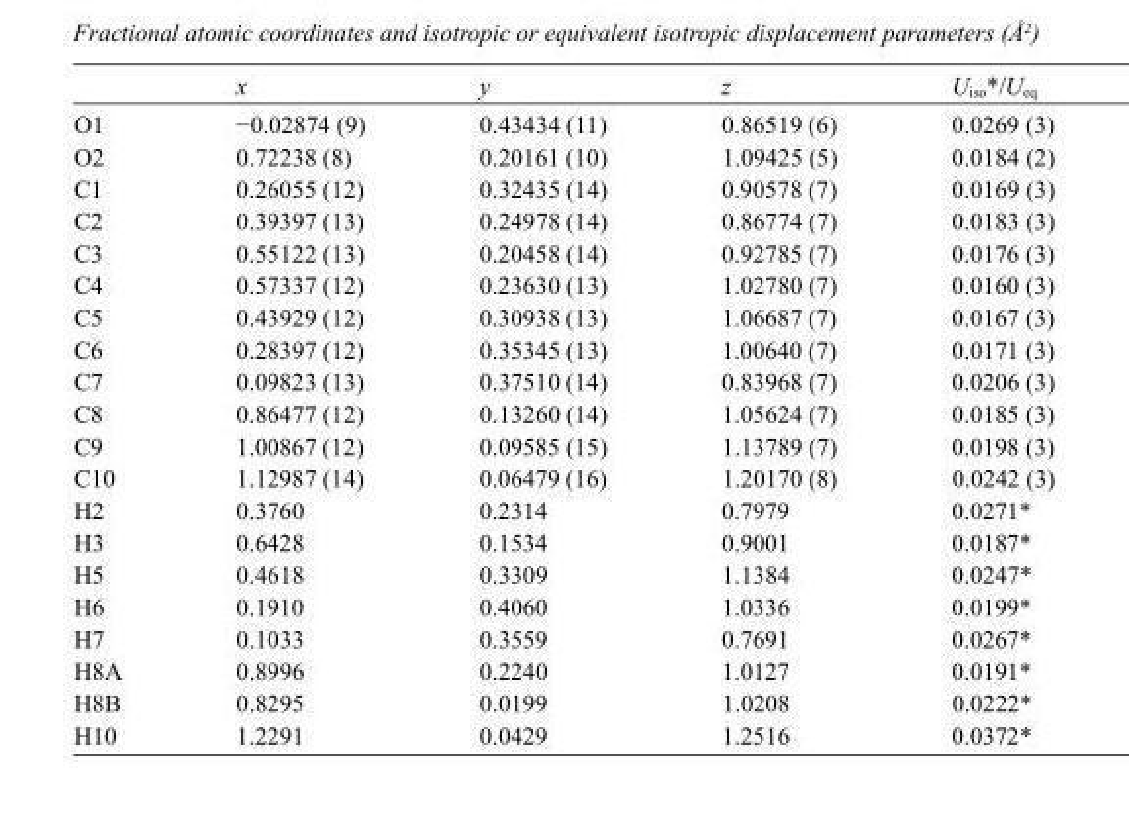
<table><thead><tr><td></td><td>x</td><td>y</td><td>z</td><td>U<sub>iso</sub>*/U<sub>eq</sub></td></tr></thead><tbody><tr><td>O1</td><td>−0.02874 (9)</td><td>0.43434 (11)</td><td>0.86519 (6)</td><td>0.0269 (3)</td></tr><tr><td>O2</td><td>0.72238 (8)</td><td>0.20161 (10)</td><td>1.09425 (5)</td><td>0.0184 (2)</td></tr><tr><td>C1</td><td>0.26055 (12)</td><td>0.32435 (14)</td><td>0.90578 (7)</td><td>0.0169 (3)</td></tr><tr><td>C2</td><td>0.39397 (13)</td><td>0.24978 (14)</td><td>0.86774 (7)</td><td>0.0183 (3)</td></tr><tr><td>C3</td><td>0.55122 (13)</td><td>0.20458 (14)</td><td>0.92785 (7)</td><td>0.0176 (3)</td></tr><tr><td>C4</td><td>0.57337 (12)</td><td>0.23630 (13)</td><td>1.02780 (7)</td><td>0.0160 (3)</td></tr><tr><td>C5</td><td>0.43929 (12)</td><td>0.30938 (13)</td><td>1.06687 (7)</td><td>0.0167 (3)</td></tr><tr><td>C6</td><td>0.28397 (12)</td><td>0.35345 (13)</td><td>1.00640 (7)</td><td>0.0171 (3)</td></tr><tr><td>C7</td><td>0.09823 (13)</td><td>0.37510 (14)</td><td>0.83968 (7)</td><td>0.0206 (3)</td></tr><tr><td>C8</td><td>0.86477 (12)</td><td>0.13260 (14)</td><td>1.05624 (7)</td><td>0.0185 (3)</td></tr><tr><td>C9</td><td>1.00867 (12)</td><td>0.09585 (15)</td><td>1.13789 (7)</td><td>0.0198 (3)</td></tr><tr><td>C10</td><td>1.12987 (14)</td><td>0.06479 (16)</td><td>1.20170 (8)</td><td>0.0242 (3)</td></tr><tr><td>H2</td><td>0.3760</td><td>0.2314</td><td>0.7979</td><td>0.0271*</td></tr><tr><td>H3</td><td>0.6428</td><td>0.1534</td><td>0.9001</td><td>0.0187*</td></tr><tr><td>H5</td><td>0.4618</td><td>0.3309</td><td>1.1384</td><td>0.0247*</td></tr><tr><td>H6</td><td>0.1910</td><td>0.4060</td><td>1.0336</td><td>0.0199*</td></tr><tr><td>H7</td><td>0.1033</td><td>0.3559</td><td>0.7691</td><td>0.0267*</td></tr><tr><td>H8A</td><td>0.8996</td><td>0.2240</td><td>1.0127</td><td>0.0191*</td></tr><tr><td>H8B</td><td>0.8295</td><td>0.0199</td><td>1.0208</td><td>0.0222*</td></tr><tr><td>H10</td><td>1.2291</td><td>0.0429</td><td>1.2516</td><td>0.0372*</td></tr></tbody></table>